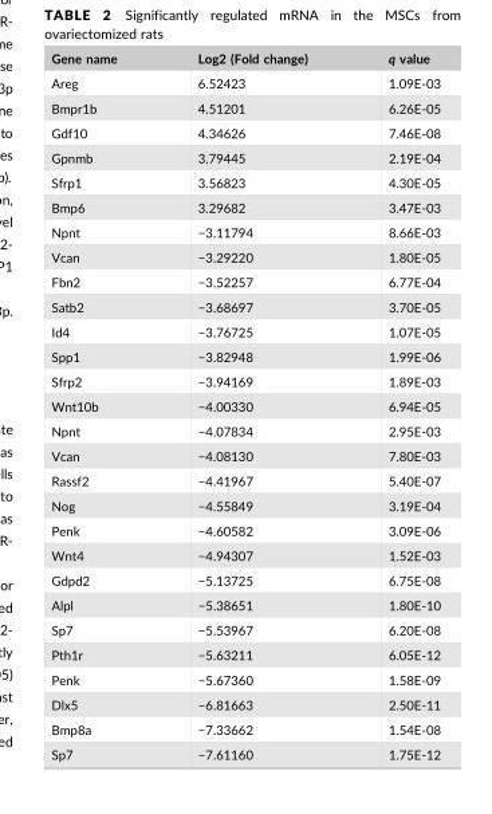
<table><thead><tr><td>Gene name</td><td>Log2 (Fold change)</td><td>q value</td></tr></thead><tbody><tr><td>Areg</td><td>6.52423</td><td>1.09E-03</td></tr><tr><td>Bmpr1b</td><td>4.51201</td><td>6.26E-05</td></tr><tr><td>Gdf10</td><td>4.34626</td><td>7.46E-08</td></tr><tr><td>Gpnmb</td><td>3.79445</td><td>2.19E-04</td></tr><tr><td>Sfrp1</td><td>3.56823</td><td>4.30E-05</td></tr><tr><td>Bmp6</td><td>3.29682</td><td>3.47E-03</td></tr><tr><td>Npnt</td><td>−3.11794</td><td>8.66E-03</td></tr><tr><td>Vcan</td><td>−3.29220</td><td>1.80E-05</td></tr><tr><td>Fbn2</td><td>−3.52257</td><td>6.77E-04</td></tr><tr><td>Satb2</td><td>−3.68697</td><td>3.70E-05</td></tr><tr><td>Id4</td><td>−3.76725</td><td>1.07E-05</td></tr><tr><td>Spp1</td><td>−3.82948</td><td>1.99E-06</td></tr><tr><td>Sfrp2</td><td>−3.94169</td><td>1.89E-03</td></tr><tr><td>Wnt10b</td><td>−4.00330</td><td>6.94E-05</td></tr><tr><td>Npnt</td><td>−4.07834</td><td>2.95E-03</td></tr><tr><td>Vcan</td><td>−4.08130</td><td>7.80E-03</td></tr><tr><td>Rassf2</td><td>−4.41967</td><td>5.40E-07</td></tr><tr><td>Nog</td><td>−4.55849</td><td>3.19E-04</td></tr><tr><td>Penk</td><td>−4.60582</td><td>3.09E-06</td></tr><tr><td>Wnt4</td><td>−4.94307</td><td>1.52E-03</td></tr><tr><td>Gdpd2</td><td>−5.13725</td><td>6.75E-08</td></tr><tr><td>Alpl</td><td>−5.38651</td><td>1.80E-10</td></tr><tr><td>Sp7</td><td>−5.53967</td><td>6.20E-08</td></tr><tr><td>Pth1r</td><td>−5.63211</td><td>6.05E-12</td></tr><tr><td>Penk</td><td>−5.67360</td><td>1.58E-09</td></tr><tr><td>Dlx5</td><td>−6.81663</td><td>2.50E-11</td></tr><tr><td>Bmp8a</td><td>−7.33662</td><td>1.54E-08</td></tr><tr><td>Sp7</td><td>−7.61160</td><td>1.75E-12</td></tr></tbody></table>